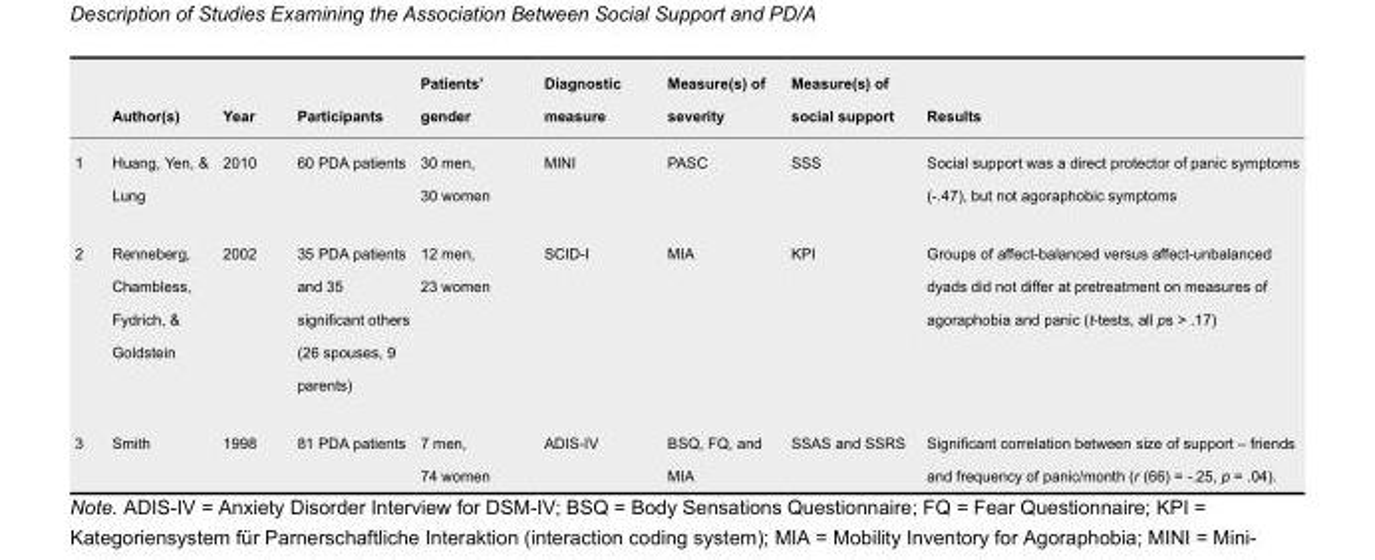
<table><thead><tr><td></td><td>Author(s)</td><td>Year</td><td>Participants</td><td>Patients’ gender</td><td>Diagnostic measure</td><td>Measure(s) of severity</td><td>Measure(s) of social support</td><td>Results</td></tr></thead><tbody><tr><td>1</td><td>Huang, Yen, &amp; Lung</td><td>2010</td><td>60 PDA patients</td><td>30 men, 30 women</td><td>MINI</td><td>PASC</td><td>SSS</td><td>Social support was a direct protector of panic symptoms (-.47), but not agoraphobic symptoms</td></tr><tr><td>2</td><td>Renneberg, Chambless, Fydrich, &amp; Goldstein</td><td>2002</td><td>35 PDA patients and 35 significant others (26 spouses, 9 parents)</td><td>12 men, 23 women</td><td>SCID-I</td><td>MIA</td><td>KPI</td><td>Groups of affect-balanced versus affect-unbalanced dyads did not differ at pretreatment on measures of agoraphobia and panic (t-tests, all ps &gt; .17)</td></tr><tr><td>3</td><td>Smith</td><td>1998</td><td>81 PDA patients</td><td>7 men, 74 women</td><td>ADIS-IV</td><td>BSQ, FQ, and MIA</td><td>SSAS and SSRS</td><td>Significant correlation between size of support – friends and frequency of panic/month (r (66) = -.25, p = .04).</td></tr></tbody></table>